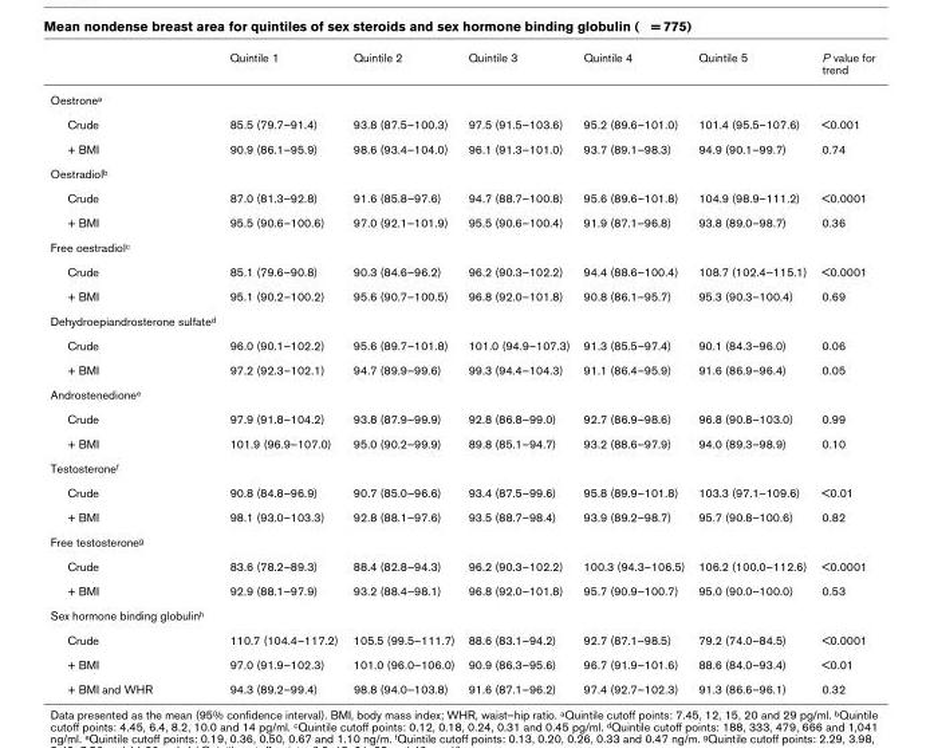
<table><thead><tr><td></td><td>Quintile 1</td><td>Quintile 2</td><td>Quintile 3</td><td>Quintile 4</td><td>Quintile 5</td><td>P value for trend</td></tr></thead><tbody><tr><td colspan="7">Oestrone<sup>a</sup></td></tr><tr><td>Crude</td><td>85.5 (79.7–91.4)</td><td>93.8 (87.5–100.3)</td><td>97.5 (91.5–103.6)</td><td>95.2 (89.6–101.0)</td><td>101.4 (95.5–107.6)</td><td>&lt;0.001</td></tr><tr><td>+ BMI</td><td>90.9 (86.1–95.9)</td><td>98.6 (93.4–104.0)</td><td>96.1 (91.3–101.0)</td><td>93.7 (89.1–98.3)</td><td>94.9 (90.1–99.7)</td><td>0.74</td></tr><tr><td colspan="7">Oestradiol<sup>b</sup></td></tr><tr><td>Crude</td><td>87.0 (81.3–92.8)</td><td>91.6 (85.8–97.6)</td><td>94.7 (88.7–100.8)</td><td>95.6 (89.6–101.8)</td><td>104.9 (98.9–111.2)</td><td>&lt;0.0001</td></tr><tr><td>+ BMI</td><td>95.5 (90.6–100.6)</td><td>97.0 (92.1–101.9)</td><td>95.5 (90.6–100.4)</td><td>91.9 (87.1–96.8)</td><td>93.8 (89.0–98.7)</td><td>0.36</td></tr><tr><td colspan="7">Free oestradiol<sup>c</sup></td></tr><tr><td>Crude</td><td>85.1 (79.6–90.8)</td><td>90.3 (84.6–96.2)</td><td>96.2 (90.3–102.2)</td><td>94.4 (88.6–100.4)</td><td>108.7 (102.4–115.1)</td><td>&lt;0.0001</td></tr><tr><td>+ BMI</td><td>95.1 (90.2–100.2)</td><td>95.6 (90.7–100.5)</td><td>96.8 (92.0–101.8)</td><td>90.8 (86.1–95.7)</td><td>95.3 (90.3–100.4)</td><td>0.69</td></tr><tr><td colspan="7">Dehydroepiandrosterone sulfate<sup>d</sup></td></tr><tr><td>Crude</td><td>96.0 (90.1–102.2)</td><td>95.6 (89.7–101.8)</td><td>101.0 (94.9–107.3)</td><td>91.3 (85.5–97.4)</td><td>90.1 (84.3–96.0)</td><td>0.06</td></tr><tr><td>+ BMI</td><td>97.2 (92.3–102.1)</td><td>94.7 (89.9–99.6)</td><td>99.3 (94.4–104.3)</td><td>91.1 (86.4–95.9)</td><td>91.6 (86.9–96.4)</td><td>0.05</td></tr><tr><td colspan="7">Androstenedione<sup>e</sup></td></tr><tr><td>Crude</td><td>97.9 (91.8–104.2)</td><td>93.8 (87.9–99.9)</td><td>92.8 (86.8–99.0)</td><td>92.7 (86.9–98.6)</td><td>96.8 (90.8–103.0)</td><td>0.99</td></tr><tr><td>+ BMI</td><td>101.9 (96.9–107.0)</td><td>95.0 (90.2–99.9)</td><td>89.8 (85.1–94.7)</td><td>93.2 (88.6–97.9)</td><td>94.0 (89.3–98.9)</td><td>0.10</td></tr><tr><td colspan="7">Testosterone<sup>f</sup></td></tr><tr><td>Crude</td><td>90.8 (84.8–96.9)</td><td>90.7 (85.0–96.6)</td><td>93.4 (87.5–99.6)</td><td>95.8 (89.9–101.8)</td><td>103.3 (97.1–109.6)</td><td>&lt;0.01</td></tr><tr><td>+ BMI</td><td>98.1 (93.0–103.3)</td><td>92.8 (88.1–97.6)</td><td>93.5 (88.7–98.4)</td><td>93.9 (89.2–98.7)</td><td>95.7 (90.8–100.6)</td><td>0.82</td></tr><tr><td colspan="7">Free testosterone<sup>g</sup></td></tr><tr><td>Crude</td><td>83.6 (78.2–89.3)</td><td>88.4 (82.8–94.3)</td><td>96.2 (90.3–102.2)</td><td>100.3 (94.3–106.5)</td><td>106.2 (100.0–112.6)</td><td>&lt;0.0001</td></tr><tr><td>+ BMI</td><td>92.9 (88.1–97.9)</td><td>93.2 (88.4–98.1)</td><td>96.8 (92.0–101.8)</td><td>95.7 (90.9–100.7)</td><td>95.0 (90.0–100.0)</td><td>0.53</td></tr><tr><td colspan="7">Sex hormone binding globulin<sup>h</sup></td></tr><tr><td>Crude</td><td>110.7 (104.4–117.2)</td><td>105.5 (99.5–111.7)</td><td>88.6 (83.1–94.2)</td><td>92.7 (87.1–98.5)</td><td>79.2 (74.0–84.5)</td><td>&lt;0.0001</td></tr><tr><td>+ BMI</td><td>97.0 (91.9–102.3)</td><td>101.0 (96.0–106.0)</td><td>90.9 (86.3–95.6)</td><td>96.7 (91.9–101.6)</td><td>88.6 (84.0–93.4)</td><td>&lt;0.01</td></tr><tr><td>+ BMI and WHR</td><td>94.3 (89.2–99.4)</td><td>98.8 (94.0–103.8)</td><td>91.6 (87.1–96.2)</td><td>97.4 (92.7–102.3)</td><td>91.3 (86.6–96.1)</td><td>0.32</td></tr></tbody></table>